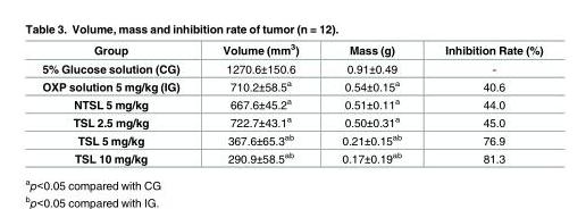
<table><thead><tr><td>Group</td><td>Volume (mm<sup>3</sup>)</td><td>Mass (g)</td><td>Inhibition Rate (%)</td></tr></thead><tbody><tr><td>5% Glucose solution (CG)</td><td>1270.6±150.6</td><td>0.91±0.49</td><td>-</td></tr><tr><td>OXP solution 5 mg/kg (IG)</td><td>710.2±58.5<sup>a</sup></td><td>0.54±0.15<sup>a</sup></td><td>40.6</td></tr><tr><td>NTSL 5 mg/kg</td><td>667.6±45.2<sup>a</sup></td><td>0.51±0.11<sup>a</sup></td><td>44.0</td></tr><tr><td>TSL 2.5 mg/kg</td><td>722.7±43.1<sup>a</sup></td><td>0.50±0.31<sup>a</sup></td><td>45.0</td></tr><tr><td>TSL 5 mg/kg</td><td>367.6±65.3<sup>ab</sup></td><td>0.21±0.15<sup>ab</sup></td><td>76.9</td></tr><tr><td>TSL 10 mg/kg</td><td>290.9±58.5<sup>ab</sup></td><td>0.17±0.19<sup>ab</sup></td><td>81.3</td></tr></tbody></table>